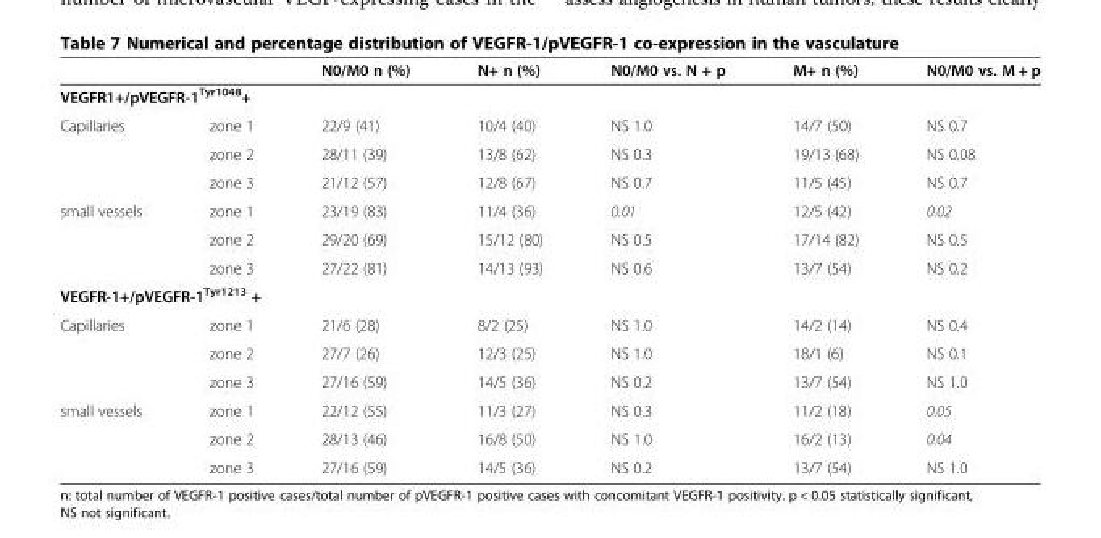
<table><thead><tr><td></td><td></td><td>N0/M0 n (%)</td><td>N+ n (%)</td><td>N0/M0 vs. N + p</td><td>M+ n (%)</td><td>N0/M0 vs. M + p</td></tr></thead><tbody><tr><td colspan="7">VEGFR1+/pVEGFR-1<sup>Tyr1048</sup>+</td></tr><tr><td rowspan="3">Capillaries</td><td>zone 1</td><td>22/9 (41)</td><td>10/4 (40)</td><td>NS 1.0</td><td>14/7 (50)</td><td>NS 0.7</td></tr><tr><td>zone 2</td><td>28/11 (39)</td><td>13/8 (62)</td><td>NS 0.3</td><td>19/13 (68)</td><td>NS 0.08</td></tr><tr><td>zone 3</td><td>21/12 (57)</td><td>12/8 (67)</td><td>NS 0.7</td><td>11/5 (45)</td><td>NS 0.7</td></tr><tr><td rowspan="3">small vessels</td><td>zone 1</td><td>23/19 (83)</td><td>11/4 (36)</td><td>0.01</td><td>12/5 (42)</td><td>0.02</td></tr><tr><td>zone 2</td><td>29/20 (69)</td><td>15/12 (80)</td><td>NS 0.5</td><td>17/14 (82)</td><td>NS 0.5</td></tr><tr><td>zone 3</td><td>27/22 (81)</td><td>14/13 (93)</td><td>NS 0.6</td><td>13/7 (54)</td><td>NS 0.2</td></tr><tr><td colspan="7">VEGFR-1+/pVEGFR-1<sup>Tyr1213</sup> +</td></tr><tr><td rowspan="3">Capillaries</td><td>zone 1</td><td>21/6 (28)</td><td>8/2 (25)</td><td>NS 1.0</td><td>14/2 (14)</td><td>NS 0.4</td></tr><tr><td>zone 2</td><td>27/7 (26)</td><td>12/3 (25)</td><td>NS 1.0</td><td>18/1 (6)</td><td>NS 0.1</td></tr><tr><td>zone 3</td><td>27/16 (59)</td><td>14/5 (36)</td><td>NS 0.2</td><td>13/7 (54)</td><td>NS 1.0</td></tr><tr><td rowspan="3">small vessels</td><td>zone 1</td><td>22/12 (55)</td><td>11/3 (27)</td><td>NS 0.3</td><td>11/2 (18)</td><td>0.05</td></tr><tr><td>zone 2</td><td>28/13 (46)</td><td>16/8 (50)</td><td>NS 1.0</td><td>16/2 (13)</td><td>0.04</td></tr><tr><td>zone 3</td><td>27/16 (59)</td><td>14/5 (36)</td><td>NS 0.2</td><td>13/7 (54)</td><td>NS 1.0</td></tr></tbody></table>